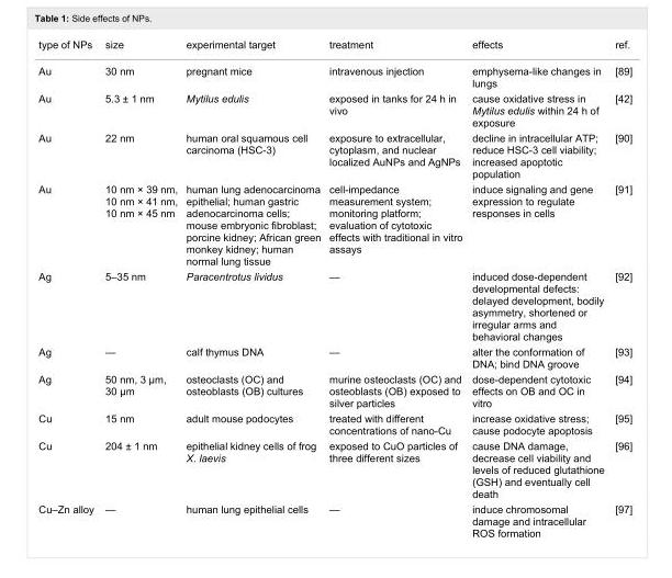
<table><tbody><tr><td>type of NPs</td><td>size</td><td>experimental target</td><td>treatment</td><td>effects</td><td>ref.</td></tr><tr><td>Au</td><td>30 nm</td><td>pregnant mice</td><td>intravenous injection</td><td>emphysema-like changes in lungs</td><td>[89]</td></tr><tr><td>Au</td><td>5.3 ± 1 nm</td><td>Mytilus edulis</td><td>exposed in tanks for 24 h in vivo</td><td>cause oxidative stress in Mytilus edulis within 24 h of exposure</td><td>[42]</td></tr><tr><td>Au</td><td>22 nm</td><td>human oral squamous cell carcinoma (HSC-3)</td><td>exposure to extracellular, cytoplasm, and nuclear localized AuNPs and AgNPs</td><td>decline in intracellular ATP; reduce HSC-3 cell viability; increased apoptotic population</td><td>[90]</td></tr><tr><td>Au</td><td>10 nm × 39 nm, 10 nm × 41 nm, 10 nm × 45 nm</td><td>human lung adenocarcinoma epithelial; human gastric adenocarcinoma cells; mouse embryonic fibroblast; porcine kidney; African green monkey kidney; human normal lung tissue</td><td>cell-impedance measurement system; monitoring platform; evaluation of cytotoxic effects with traditional in vitro assays</td><td>induce signaling and gene expression to regulate responses in cells</td><td>[91]</td></tr><tr><td>Ag</td><td>5–35 nm</td><td>Paracentrotus lividus</td><td>—</td><td>induced dose-dependent developmental defects: delayed development, bodily asymmetry, shortened or irregular arms and behavioral changes</td><td>[92]</td></tr><tr><td>Ag</td><td>—</td><td>calf thymus DNA</td><td>—</td><td>alter the conformation of DNA; bind DNA groove</td><td>[93]</td></tr><tr><td>Ag</td><td>50 nm, 3 μm, 30 μm</td><td>osteoclasts (OC) and osteoblasts (OB) cultures</td><td>murine osteoclasts (OC) and osteoblasts (OB) exposed to silver particles</td><td>dose-dependent cytotoxic effects on OB and OC in vitro</td><td>[94]</td></tr><tr><td>Cu</td><td>15 nm</td><td>adult mouse podocytes</td><td>treated with different concentrations of nano-Cu</td><td>increase oxidative stress; cause podocyte apoptosis</td><td>[95]</td></tr><tr><td>Cu</td><td>204 ± 1 nm</td><td>epithelial kidney cells of frog X. laevis</td><td>exposed to CuO particles of three different sizes</td><td>cause DNA damage, decrease cell viability and levels of reduced glutathione (GSH) and eventually cell death</td><td>[96]</td></tr><tr><td>Cu–Zn alloy</td><td>—</td><td>human lung epithelial cells</td><td>—</td><td>induce chromosomal damage and intracellular ROS formation</td><td>[97]</td></tr></tbody></table>